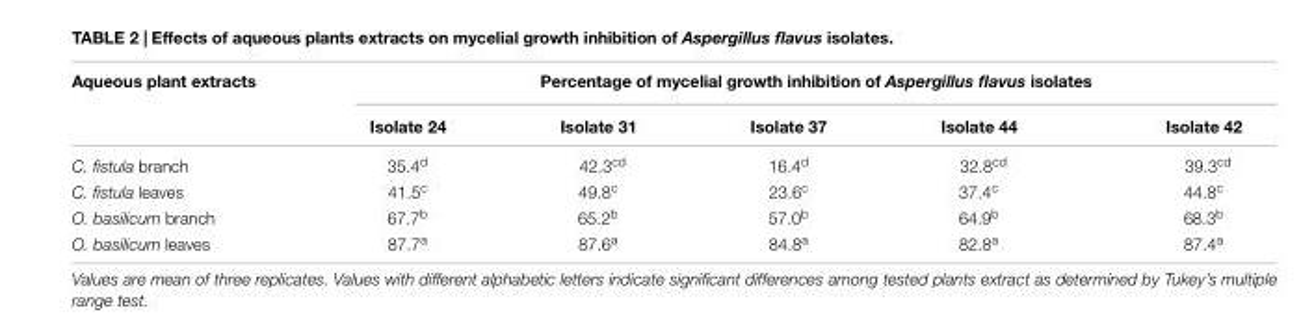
<table><thead><tr><td rowspan="2">Aqueous plant extracts</td><td colspan="5">Percentage of mycelial growth inhibition of Aspergillus flavus isolates</td></tr><tr><td>Isolate 24</td><td>Isolate 31</td><td>Isolate 37</td><td>Isolate 44</td><td>Isolate 42</td></tr></thead><tbody><tr><td>C. fistula branch</td><td>35.4<sup>d</sup></td><td>42.3<sup>cd</sup></td><td>16.4<sup>d</sup></td><td>32.8<sup>cd</sup></td><td>39.3<sup>cd</sup></td></tr><tr><td>C. fistula leaves</td><td>41.5<sup>c</sup></td><td>49.8<sup>c</sup></td><td>23.6<sup>c</sup></td><td>37.4<sup>c</sup></td><td>44.8<sup>c</sup></td></tr><tr><td>O. basilicum branch</td><td>67.7<sup>b</sup></td><td>65.2<sup>b</sup></td><td>57.0<sup>b</sup></td><td>64.9<sup>b</sup></td><td>68.3<sup>b</sup></td></tr><tr><td>O. basilicum leaves</td><td>87.7<sup>a</sup></td><td>87.6<sup>a</sup></td><td>84.8<sup>a</sup></td><td>82.8<sup>a</sup></td><td>87.4<sup>a</sup></td></tr></tbody></table>